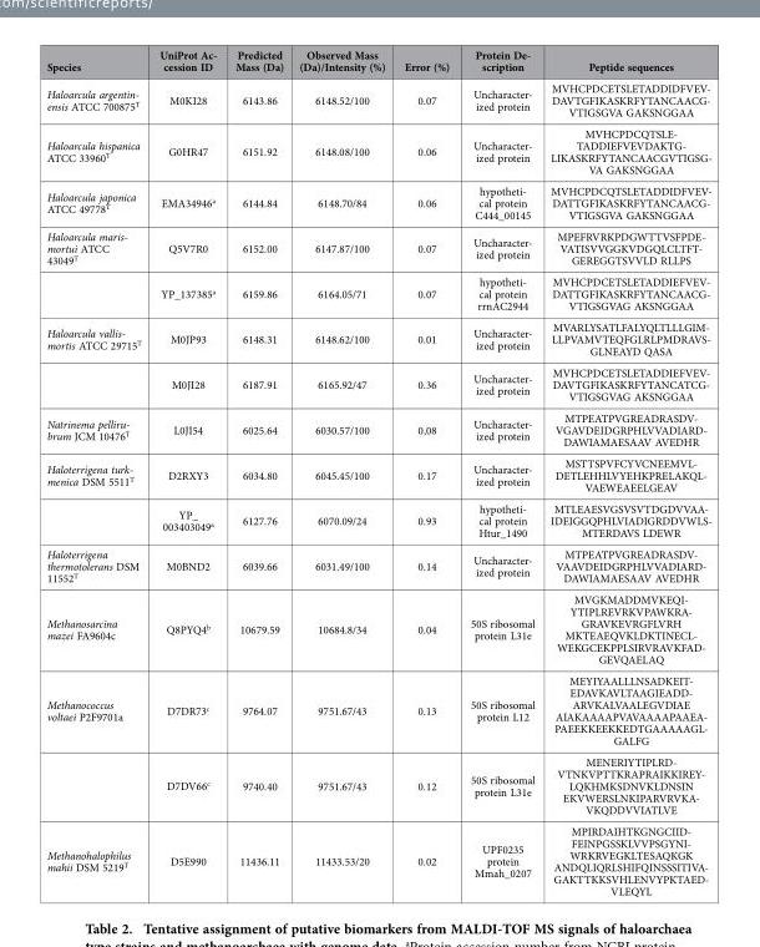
<table><thead><tr><td>Species</td><td>UniProt Ac- cession ID</td><td>Predicted Mass (Da)</td><td>Observed Mass (Da)/Intensity (%)</td><td>Error (%)</td><td>Protein De- scription</td><td>Peptide sequences</td></tr></thead><tbody><tr><td>Haloarcula argentin- ensis ATCC 700875T</td><td>M0KI28</td><td>6143.86</td><td>6148.52/100</td><td>0.07</td><td>Uncharacter- ized protein</td><td>MVHCPDCETSLETADDIDFVEV- DAVTGFIKASKRFYTANCAACG- VTIGSGVA GAKSNGGAA</td></tr><tr><td>Haloarcula hispanica ATCC 33960<sup>T</sup></td><td>G0HR47</td><td>6151.92</td><td>6148.08/100</td><td>0.06</td><td>Uncharacter- ized protein</td><td>MVHCPDCQTSLE- TADDIEFVEVDAKTG- LIKASKRFYTANCAACGVTIGSG- VA GAKSNGGAA</td></tr><tr><td>Haloarcula japonica ATCC 49778<sup>T</sup></td><td>EMA34946<sup>a</sup></td><td>6144.84</td><td>6148.70/84</td><td>0.06</td><td>hypotheti- cal protein C444_00145</td><td>MVHCPDCQTSLETADDIDFVEV- DATTGFIKASKRFYTANCAACG- VTIGSGVA GAKSNGGAA</td></tr><tr><td rowspan="2">Haloarcula maris- mortui ATCC 43049T</td><td>Q5V7R0</td><td>6152.00</td><td>6147.87/100</td><td>0.07</td><td>Uncharacter- ized protein</td><td>MPEFRVRKPDGWTTVSFPDE- VATISVVGGKVDGQLCLTFT- GEREGGTSVVLD RLLPS</td></tr><tr><td>YP_137385<sup>a</sup></td><td>6159.86</td><td>6164.05/71</td><td>0.07</td><td>hypotheti- cal protein rrnAC2944</td><td>MVHCPDCETSLETADDIEFVEV- DATTGFIKASKRFYTANCAACG- VTIGSGVAG AKSNGGAA</td></tr><tr><td rowspan="2">Haloarcula vallis- mortis ATCC 29715T</td><td>M0JP93</td><td>6148.31</td><td>6148.62/100</td><td>0.01</td><td>Uncharacter- ized protein</td><td>MVARLYSATLFALYQLTLLLGIM- LLPVAMVTEQFGLRLPMDRAVS- GLNEAYD QASA</td></tr><tr><td>M0JI28</td><td>6187.91</td><td>6165.92/47</td><td>0.36</td><td>Uncharacter- ized protein</td><td>MVHCPDCETSLETADDIEFVEV- DAVTGFIKASKRFYTANCATCG- VTIGSGVAG AKSNGGAA</td></tr><tr><td>Natrinema pelliru- brum JCM 10476T</td><td>L0JI54</td><td>6025.64</td><td>6030.57/100</td><td>0,08</td><td>Uncharacter- ized protein</td><td>MTPEATPVGREADRASDV- VGAVDEIDGRPHLVVADIARD- DAWIAMAESAAV AVEDHR</td></tr><tr><td rowspan="2">Haloterrigena turk- menica DSM 5511T</td><td>D2RXY3</td><td>6034.80</td><td>6045.45/100</td><td>0.17</td><td>Uncharacter- ized protein</td><td>MSTTSPVFCYVCNEEMVL- DETLEHHLVYEHKPRELAKQL- VAEWEAEELGEAV</td></tr><tr><td>YP_ 003403049<sup>a</sup></td><td>6127.76</td><td>6070.09/24</td><td>0.93</td><td>hypotheti- cal protein Htur_1490</td><td>MTLEAESVGSVSVTDGDVVAA- IDEIGGQPHLVIADIGRDDVWLS- MTERDAVS LDEWR</td></tr><tr><td>Haloterrigena thermotolerans DSM 11552<sup>T</sup></td><td>M0BND2</td><td>6039.66</td><td>6031.49/100</td><td>0.14</td><td>Uncharacter- ized protein</td><td>MTPEATPVGREADRASDV- VAAVDEIDGRPHLVVADIARD- DAWIAMAESAAV AVEDHR</td></tr><tr><td>Methanosarcina mazei FA9604c</td><td>Q8PYQ4<sup>b</sup></td><td>10679.59</td><td>10684.8/34</td><td>0.04</td><td>50S ribosomal protein L31e</td><td>MVGKMADDMVKEQI- YTIPLREVRKVPAWKRA- GRAVKEVRGFLVRH MKTEAEQVKLDKTINECL- WEKGCEKPPLSIRVRAVKFAD- GEVQAELAQ</td></tr><tr><td rowspan="2">Methanococcus voltaei P2F9701a</td><td>D7DR73<sup>c</sup></td><td>9764.07</td><td>9751.67/43</td><td>0.13</td><td>50S ribosomal protein L12</td><td>MEYIYAALLLNSADKEIT- EDAVKAVLTAAGIEADD- ARVKALVAALEGVDIAE AIAKAAAAPVAVAAAAPAAEA- PAEEKKEEKKEDTGAAAAAGL- GALFG</td></tr><tr><td>D7DV66<sup>c</sup></td><td>9740.40</td><td>9751.67/43</td><td>0.12</td><td>50S ribosomal protein L31e</td><td>MENERIYTIPLRD- VTNKVPTTKRAPRAIKKIREY- LQKHMKSDNVKLDNSIN EKVWERSLNKIPARVRVKA- VKQDDVVIATLVE</td></tr><tr><td>Methanohalophilus mahii DSM 5219<sup>T</sup></td><td>D5E990</td><td>11436.11</td><td>11433.53/20</td><td>0.02</td><td>UPF0235 protein Mmah_0207</td><td>MPIRDAIHTKGNGCIID- FEINPGSSKLVVPSGYNI- WRKRVEGKLTESAQKGK ANDQLIQRLSHIFQINSSSITIVA- GAKTTKKSVHLENVYPKTAED- VLEQYL</td></tr></tbody></table>